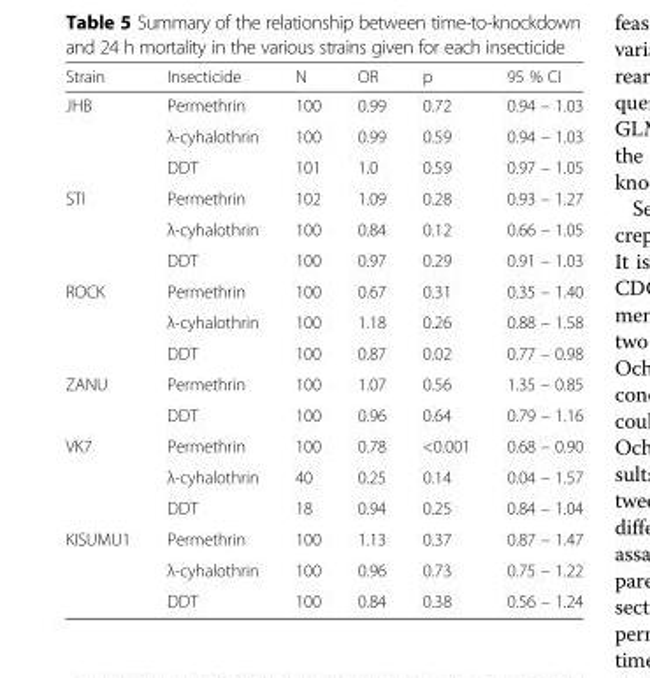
<table><thead><tr><td>Strain</td><td>Insecticide</td><td>N</td><td>OR</td><td>p</td><td>95 % CI</td></tr></thead><tbody><tr><td rowspan="3">JHB</td><td>Permethrin</td><td>100</td><td>0.99</td><td>0.72</td><td>0.94 – 1.03</td></tr><tr><td>λ-cyhalothrin</td><td>100</td><td>0.99</td><td>0.59</td><td>0.94 – 1.03</td></tr><tr><td>DDT</td><td>101</td><td>1.0</td><td>0.59</td><td>0.97 – 1.05</td></tr><tr><td rowspan="3">STI</td><td>Permethrin</td><td>102</td><td>1.09</td><td>0.28</td><td>0.93 – 1.27</td></tr><tr><td>λ-cyhalothrin</td><td>100</td><td>0.84</td><td>0.12</td><td>0.66 – 1.05</td></tr><tr><td>DDT</td><td>100</td><td>0.97</td><td>0.29</td><td>0.91 – 1.03</td></tr><tr><td rowspan="3">ROCK</td><td>Permethrin</td><td>100</td><td>0.67</td><td>0.31</td><td>0.35 – 1.40</td></tr><tr><td>λ-cyhalothrin</td><td>100</td><td>1.18</td><td>0.26</td><td>0.88 – 1.58</td></tr><tr><td>DDT</td><td>100</td><td>0.87</td><td>0.02</td><td>0.77 – 0.98</td></tr><tr><td rowspan="2">ZANU</td><td>Permethrin</td><td>100</td><td>1.07</td><td>0.56</td><td>1.35 – 0.85</td></tr><tr><td>DDT</td><td>100</td><td>0.96</td><td>0.64</td><td>0.79 – 1.16</td></tr><tr><td rowspan="3">VK7</td><td>Permethrin</td><td>100</td><td>0.78</td><td>&lt;0.001</td><td>0.68 – 0.90</td></tr><tr><td>λ-cyhalothrin</td><td>40</td><td>0.25</td><td>0.14</td><td>0.04 – 1.57</td></tr><tr><td>DDT</td><td>18</td><td>0.94</td><td>0.25</td><td>0.84 – 1.04</td></tr><tr><td rowspan="3">KISUMU1</td><td>Permethrin</td><td>100</td><td>1.13</td><td>0.37</td><td>0.87 – 1.47</td></tr><tr><td>λ-cyhalothrin</td><td>100</td><td>0.96</td><td>0.73</td><td>0.75 – 1.22</td></tr><tr><td>DDT</td><td>100</td><td>0.84</td><td>0.38</td><td>0.56 – 1.24</td></tr></tbody></table>